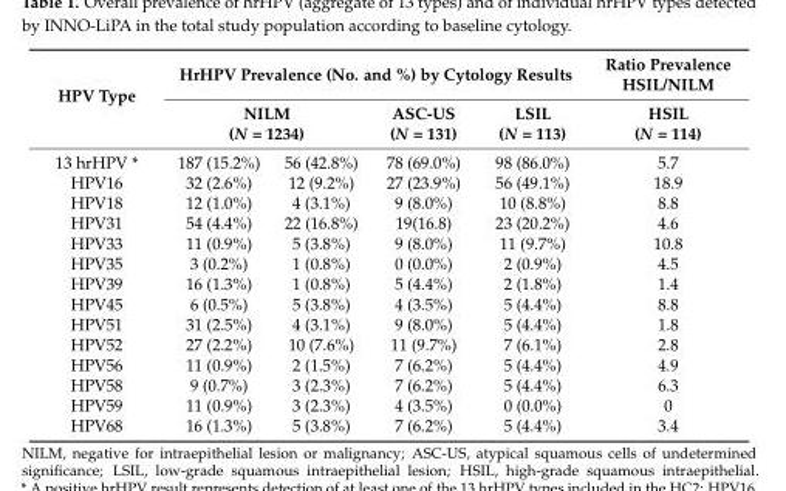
<table><thead><tr><td rowspan="3">HPV Type 13 hrHPV *</td><td colspan="4">HrHPV Prevalence (No. and %) by Cytology Results</td><td rowspan="3">Ratio Prevalence HSIL/NILM HSIL (N = 114) 5.7</td></tr><tr><td colspan="2">NILM (N = 1234)</td><td rowspan="2">ASC-US (N = 131) 78 (69.0%)</td><td rowspan="2">LSIL (N = 113) 98 (86.0%)</td></tr><tr><td>187 (15.2%)</td><td>56 (42.8%)</td></tr></thead><tbody><tr><td>HPV16</td><td>32 (2.6%)</td><td>12 (9.2%)</td><td>27 (23.9%)</td><td>56 (49.1%)</td><td>18.9</td></tr><tr><td>HPV18</td><td>12 (1.0%)</td><td>4 (3.1%)</td><td>9 (8.0%)</td><td>10 (8.8%)</td><td>8.8</td></tr><tr><td>HPV31</td><td>54 (4.4%)</td><td>22 (16.8%)</td><td>19(16.8)</td><td>23 (20.2%)</td><td>4.6</td></tr><tr><td>HPV33</td><td>11 (0.9%)</td><td>5 (3.8%)</td><td>9 (8.0%)</td><td>11 (9.7%)</td><td>10.8</td></tr><tr><td>HPV35</td><td>3 (0.2%)</td><td>1 (0.8%)</td><td>0 (0.0%)</td><td>2 (0.9%)</td><td>4.5</td></tr><tr><td>HPV39</td><td>16 (1.3%)</td><td>1 (0.8%)</td><td>5 (4.4%)</td><td>2 (1.8%)</td><td>1.4</td></tr><tr><td>HPV45</td><td>6 (0.5%)</td><td>5 (3.8%)</td><td>4 (3.5%)</td><td>5 (4.4%)</td><td>8.8</td></tr><tr><td>HPV51</td><td>31 (2.5%)</td><td>4 (3.1%)</td><td>9 (8.0%)</td><td>5 (4.4%)</td><td>1.8</td></tr><tr><td>HPV52</td><td>27 (2.2%)</td><td>10 (7.6%)</td><td>11 (9.7%)</td><td>7 (6.1%)</td><td>2.8</td></tr><tr><td>HPV56</td><td>11 (0.9%)</td><td>2 (1.5%)</td><td>7 (6.2%)</td><td>5 (4.4%)</td><td>4.9</td></tr><tr><td>HPV58</td><td>9 (0.7%)</td><td>3 (2.3%)</td><td>7 (6.2%)</td><td>5 (4.4%)</td><td>6.3</td></tr><tr><td>HPV59</td><td>11 (0.9%)</td><td>3 (2.3%)</td><td>4 (3.5%)</td><td>0 (0.0%)</td><td>0</td></tr><tr><td>HPV68</td><td>16 (1.3%)</td><td>5 (3.8%)</td><td>7 (6.2%)</td><td>5 (4.4%)</td><td>3.4</td></tr></tbody></table>